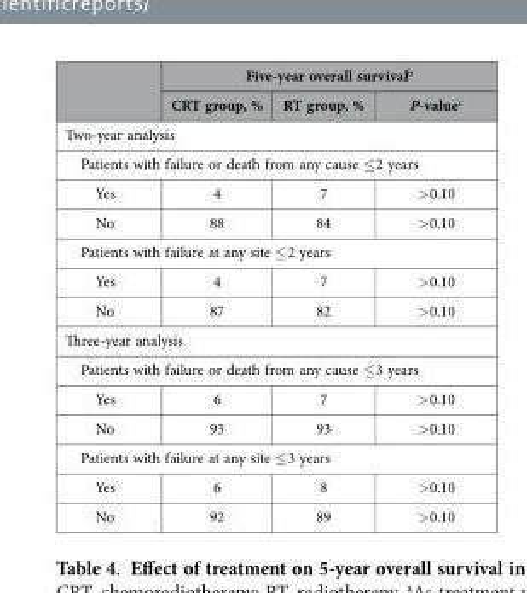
<table><thead><tr><td rowspan="2"></td><td colspan="3">Five-year overall survival<sup>b</sup></td></tr><tr><td>CRT group, %</td><td>RT group, %</td><td>P-value<sup>c</sup></td></tr></thead><tbody><tr><td colspan="4">Two-year analysis</td></tr><tr><td colspan="4">Patients with failure or death from any cause ≤ 2 years</td></tr><tr><td>Yes</td><td>4</td><td>7</td><td>&gt; 0.10</td></tr><tr><td>No</td><td>88</td><td>84</td><td>&gt; 0.10</td></tr><tr><td colspan="4">Patients with failure at any site ≤ 2 years</td></tr><tr><td>Yes</td><td>4</td><td>7</td><td>&gt; 0.10</td></tr><tr><td>No</td><td>87</td><td>82</td><td>&gt; 0.10</td></tr><tr><td colspan="4">Three-year analysis</td></tr><tr><td colspan="4">Patients with failure or death from any cause ≤ 3 years</td></tr><tr><td>Yes</td><td>6</td><td>7</td><td>&gt; 0.10</td></tr><tr><td>No</td><td>93</td><td>93</td><td>&gt; 0.10</td></tr><tr><td colspan="4">Patients with failure at any site ≤ 3 years</td></tr><tr><td>Yes</td><td>6</td><td>8</td><td>&gt; 0.10</td></tr><tr><td>No</td><td>92</td><td>89</td><td>&gt; 0.10</td></tr></tbody></table>